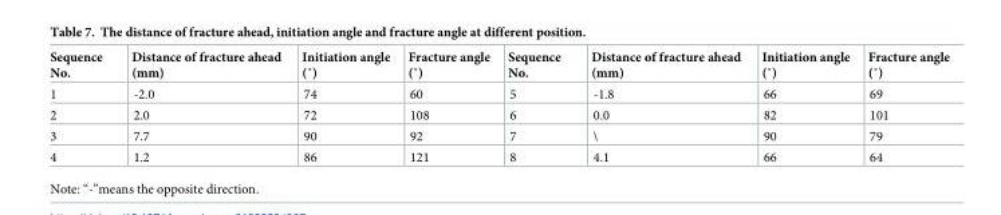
<table><thead><tr><td>Sequence No.</td><td>Distance of fracture ahead (mm)</td><td>Initiation angle (˚)</td><td>Fracture angle (˚)</td><td>Sequence No.</td><td>Distance of fracture ahead (mm)</td><td>Initiation angle (˚)</td><td>Fracture angle (˚)</td></tr></thead><tbody><tr><td>1</td><td>-2.0</td><td>74</td><td>60</td><td>5</td><td>-1.8</td><td>66</td><td>69</td></tr><tr><td>2</td><td>2.0</td><td>72</td><td>108</td><td>6</td><td>0.0</td><td>82</td><td>101</td></tr><tr><td>3</td><td>7.7</td><td>90</td><td>92</td><td>7</td><td>\</td><td>90</td><td>79</td></tr><tr><td>4</td><td>1.2</td><td>86</td><td>121</td><td>8</td><td>4.1</td><td>66</td><td>64</td></tr></tbody></table>